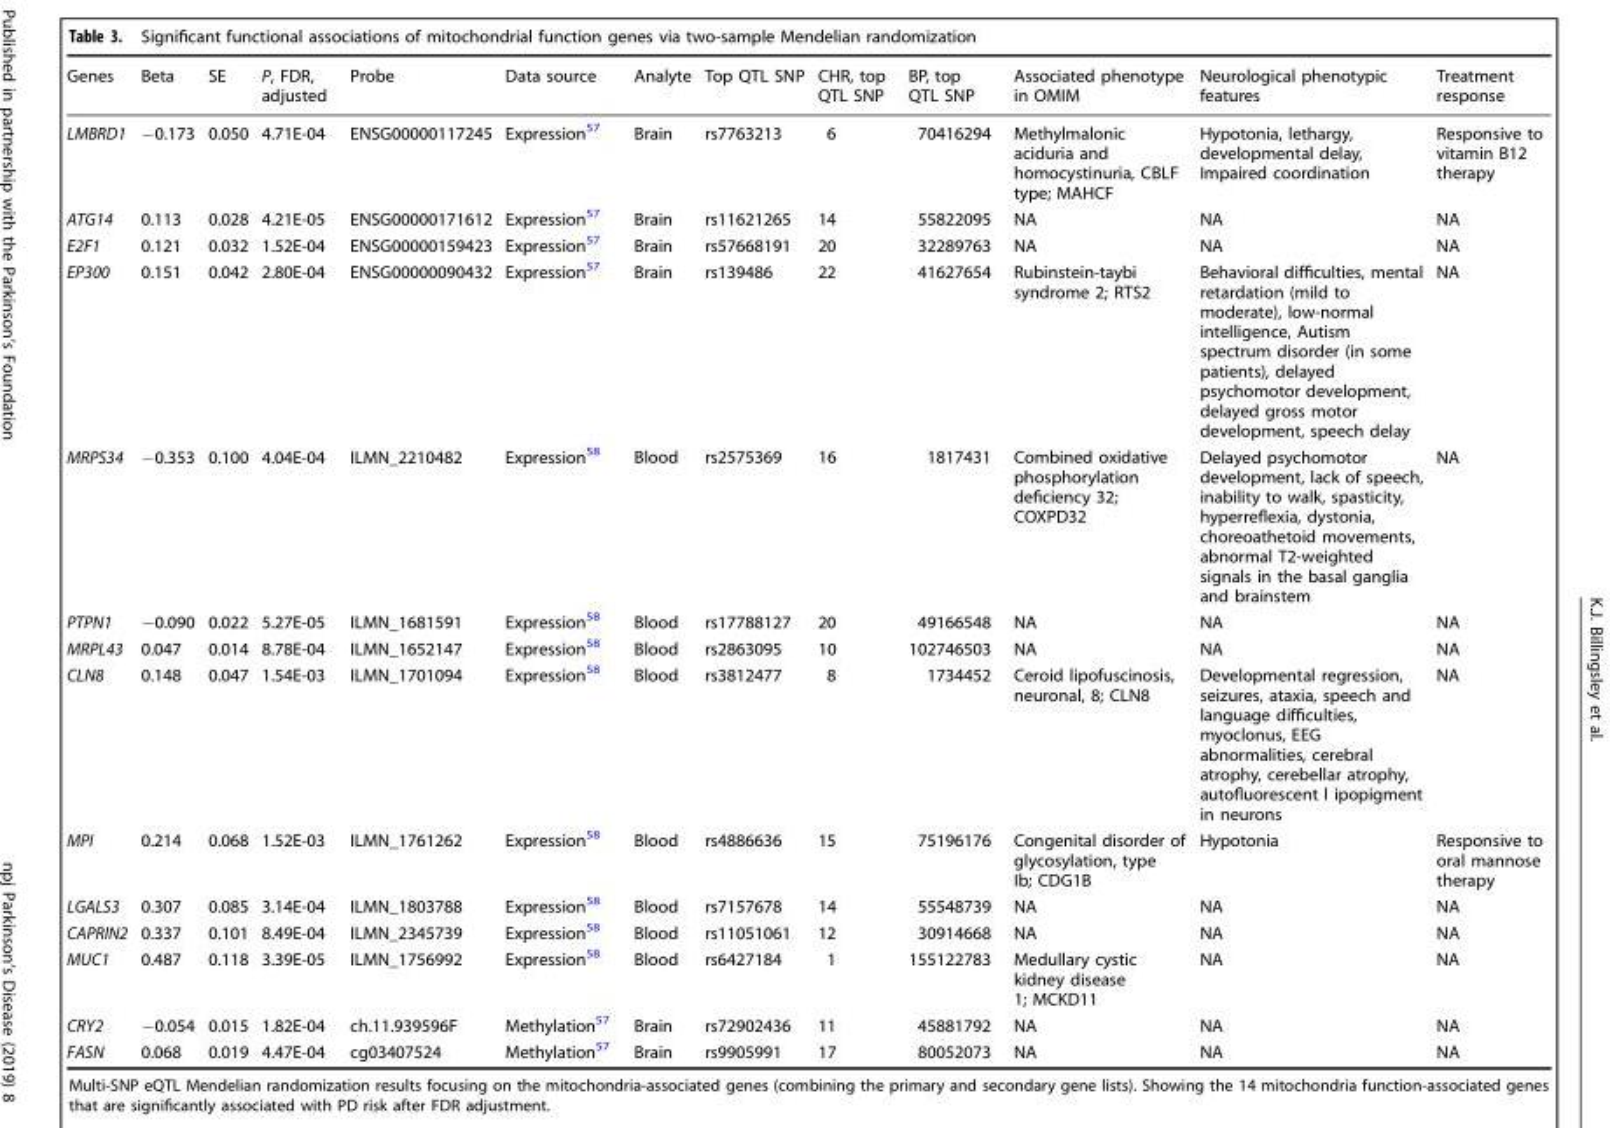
<table><thead><tr><td>Genes</td><td>Beta</td><td>SE</td><td>P, FDR, adjusted</td><td>Probe</td><td>Data source</td><td>Analyte</td><td>Top QTL SNP</td><td>CHR, top QTL SNP</td><td>BP, top QTL SNP</td><td>Associated phenotype in OMIM</td><td>Neurological phenotypic features</td><td>Treatment response</td></tr></thead><tbody><tr><td>LMBRD1</td><td>−0.173</td><td>0.050</td><td>4.71E-04</td><td>ENSG00000117245</td><td>Expression<sup>57</sup></td><td>Brain</td><td>rs7763213</td><td>6</td><td>70416294</td><td>Methylmalonic aciduria and homocystinuria, CBLF type; MAHCF</td><td>Hypotonia, lethargy, developmental delay, Impaired coordination</td><td>Responsive to vitamin B12 therapy</td></tr><tr><td>ATG14</td><td>0.113</td><td>0.028</td><td>4.21E-05</td><td>ENSG00000171612</td><td>Expression<sup>57</sup></td><td>Brain</td><td>rs11621265</td><td>14</td><td>55822095</td><td>NA</td><td>NA</td><td>NA</td></tr><tr><td>E2F1</td><td>0.121</td><td>0.032</td><td>1.52E-04</td><td>ENSG00000159423</td><td>Expression<sup>57</sup></td><td>Brain</td><td>rs57668191</td><td>20</td><td>32289763</td><td>NA</td><td>NA</td><td>NA</td></tr><tr><td>EP300</td><td>0.151</td><td>0.042</td><td>2.80E-04</td><td>ENSG00000090432</td><td>Expression<sup>57</sup></td><td>Brain</td><td>rs139486</td><td>22</td><td>41627654</td><td>Rubinstein-taybi syndrome 2; RTS2</td><td>Behavioral difficulties, mental retardation (mild to moderate), low-normal intelligence, Autism spectrum disorder (in some patients), delayed psychomotor development, delayed gross motor development, speech delay</td><td>NA</td></tr><tr><td>MRPS34</td><td>−0.353</td><td>0.100</td><td>4.04E-04</td><td>ILMN_2210482</td><td>Expression<sup>58</sup></td><td>Blood</td><td>rs2575369</td><td>16</td><td>1817431</td><td>Combined oxidative phosphorylation deficiency 32; COXPD32</td><td>Delayed psychomotor development, lack of speech, inability to walk, spasticity, hyperreflexia, dystonia, choreoathetoid movements, abnormal T2-weighted signals in the basal ganglia and brainstem</td><td>NA</td></tr><tr><td>PTPN1</td><td>−0.090</td><td>0.022</td><td>5.27E-05</td><td>ILMN_1681591</td><td>Expression<sup>58</sup></td><td>Blood</td><td>rs17788127</td><td>20</td><td>49166548</td><td>NA</td><td>NA</td><td>NA</td></tr><tr><td>MRPL43</td><td>0.047</td><td>0.014</td><td>8.78E-04</td><td>ILMN_1652147</td><td>Expression<sup>58</sup></td><td>Blood</td><td>rs2863095</td><td>10</td><td>102746503</td><td>NA</td><td>NA</td><td>NA</td></tr><tr><td>CLN8</td><td>0.148</td><td>0.047</td><td>1.54E-03</td><td>ILMN_1701094</td><td>Expression<sup>58</sup></td><td>Blood</td><td>rs3812477</td><td>8</td><td>1734452</td><td>Ceroid lipofuscinosis, neuronal, 8; CLN8</td><td>Developmental regression, seizures, ataxia, speech and language difficulties, myoclonus, EEG abnormalities, cerebral atrophy, cerebellar atrophy, autofluorescent l ipopigment in neurons</td><td>NA</td></tr><tr><td>MPI</td><td>0.214</td><td>0.068</td><td>1.52E-03</td><td>ILMN_1761262</td><td>Expression<sup>58</sup></td><td>Blood</td><td>rs4886636</td><td>15</td><td>75196176</td><td>Congenital disorder of glycosylation, type Ib; CDG1B</td><td>Hypotonia</td><td>Responsive to oral mannose therapy</td></tr><tr><td>LGALS3</td><td>0.307</td><td>0.085</td><td>3.14E-04</td><td>ILMN_1803788</td><td>Expression<sup>58</sup></td><td>Blood</td><td>rs7157678</td><td>14</td><td>55548739</td><td>NA</td><td>NA</td><td>NA</td></tr><tr><td>CAPRIN2</td><td>0.337</td><td>0.101</td><td>8.49E-04</td><td>ILMN_2345739</td><td>Expression<sup>58</sup></td><td>Blood</td><td>rs11051061</td><td>12</td><td>30914668</td><td>NA</td><td>NA</td><td>NA</td></tr><tr><td>MUC1</td><td>0.487</td><td>0.118</td><td>3.39E-05</td><td>ILMN_1756992</td><td>Expression<sup>58</sup></td><td>Blood</td><td>rs6427184</td><td>1</td><td>155122783</td><td>Medullary cystic kidney disease 1; MCKD11</td><td>NA</td><td>NA</td></tr><tr><td>CRY2</td><td>−0.054</td><td>0.015</td><td>1.82E-04</td><td>ch.11.939596F</td><td>Methylation<sup>57</sup></td><td>Brain</td><td>rs72902436</td><td>11</td><td>45881792</td><td>NA</td><td>NA</td><td>NA</td></tr><tr><td>FASN</td><td>0.068</td><td>0.019</td><td>4.47E-04</td><td>cg03407524</td><td>Methylation<sup>57</sup></td><td>Brain</td><td>rs9905991</td><td>17</td><td>80052073</td><td>NA</td><td>NA</td><td>NA</td></tr></tbody></table>